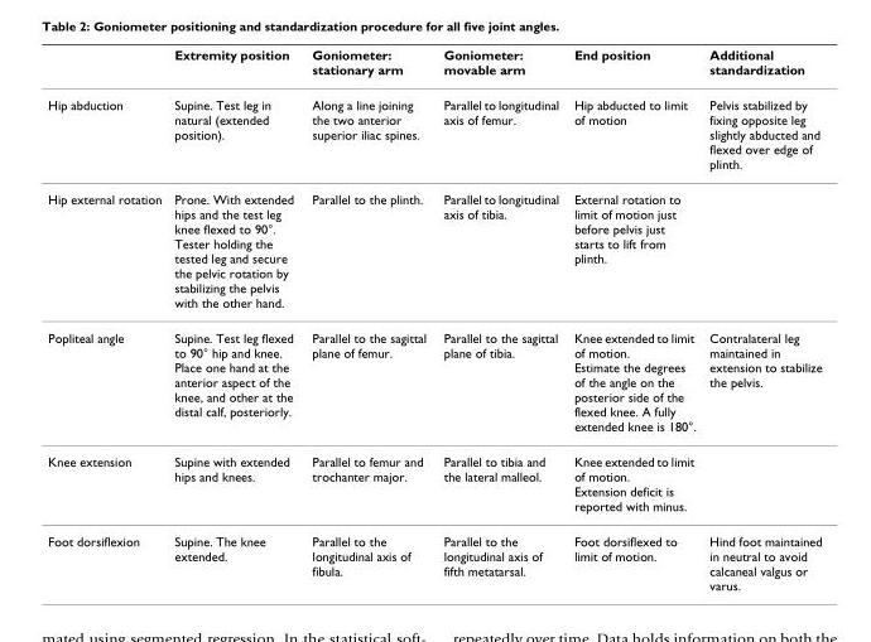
<table><thead><tr><td></td><td>Extremity position</td><td>Goniometer: stationary arm</td><td>Goniometer: movable arm</td><td>End position</td><td>Additional standardization</td></tr></thead><tbody><tr><td>Hip abduction</td><td>Supine. Test leg in natural (extended position).</td><td>Along a line joining the two anterior superior iliac spines.</td><td>Parallel to longitudinal axis of femur.</td><td>Hip abducted to limit of motion</td><td>Pelvis stabilized by fixing opposite leg slightly abducted and flexed over edge of plinth.</td></tr><tr><td>Hip external rotation</td><td>Prone. With extended hips and the test leg knee flexed to 90°. Tester holding the tested leg and secure the pelvic rotation by stabilizing the pelvis with the other hand.</td><td>Parallel to the plinth.</td><td>Parallel to longitudinal axis of tibia.</td><td>External rotation to limit of motion just before pelvis just starts to lift from plinth.</td><td></td></tr><tr><td>Popliteal angle</td><td>Supine. Test leg flexed to 90° hip and knee. Place one hand at the anterior aspect of the knee, and other at the distal calf, posteriorly.</td><td>Parallel to the sagittal plane of femur.</td><td>Parallel to the sagittal plane of tibia.</td><td>Knee extended to limit of motion. Estimate the degrees of the angle on the posterior side of the flexed knee. A fully extended knee is 180°.</td><td>Contralateral leg maintained in extension to stabilize the pelvis.</td></tr><tr><td>Knee extension</td><td>Supine with extended hips and knees.</td><td>Parallel to femur and trochanter major.</td><td>Parallel to tibia and the lateral malleol.</td><td>Knee extended to limit of motion. Extension deficit is reported with minus.</td><td></td></tr><tr><td>Foot dorsiflexion</td><td>Supine. The knee extended.</td><td>Parallel to the longitudinal axis of fibula.</td><td>Parallel to the longitudinal axis of fifth metatarsal.</td><td>Foot dorsiflexed to limit of motion.</td><td>Hind foot maintained in neutral to avoid calcaneal valgus or varus.</td></tr></tbody></table>